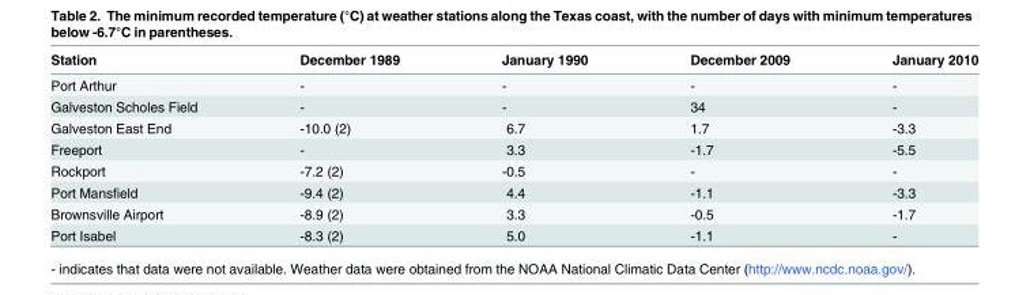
<table><thead><tr><td>Station</td><td>December 1989</td><td>January 1990</td><td>December 2009</td><td>January 2010</td></tr></thead><tbody><tr><td>Port Arthur</td><td>-</td><td>-</td><td>-</td><td>-</td></tr><tr><td>Galveston Scholes Field</td><td>-</td><td>-</td><td>34</td><td>-</td></tr><tr><td>Galveston East End</td><td>-10.0 (2)</td><td>6.7</td><td>1.7</td><td>-3.3</td></tr><tr><td>Freeport</td><td>-</td><td>3.3</td><td>-1.7</td><td>-5.5</td></tr><tr><td>Rockport</td><td>-7.2 (2)</td><td>-0.5</td><td>-</td><td>-</td></tr><tr><td>Port Mansfield</td><td>-9.4 (2)</td><td>4.4</td><td>-1.1</td><td>-3.3</td></tr><tr><td>Brownsville Airport</td><td>-8.9 (2)</td><td>3.3</td><td>-0.5</td><td>-1.7</td></tr><tr><td>Port Isabel</td><td>-8.3 (2)</td><td>5.0</td><td>-1.1</td><td>-</td></tr></tbody></table>